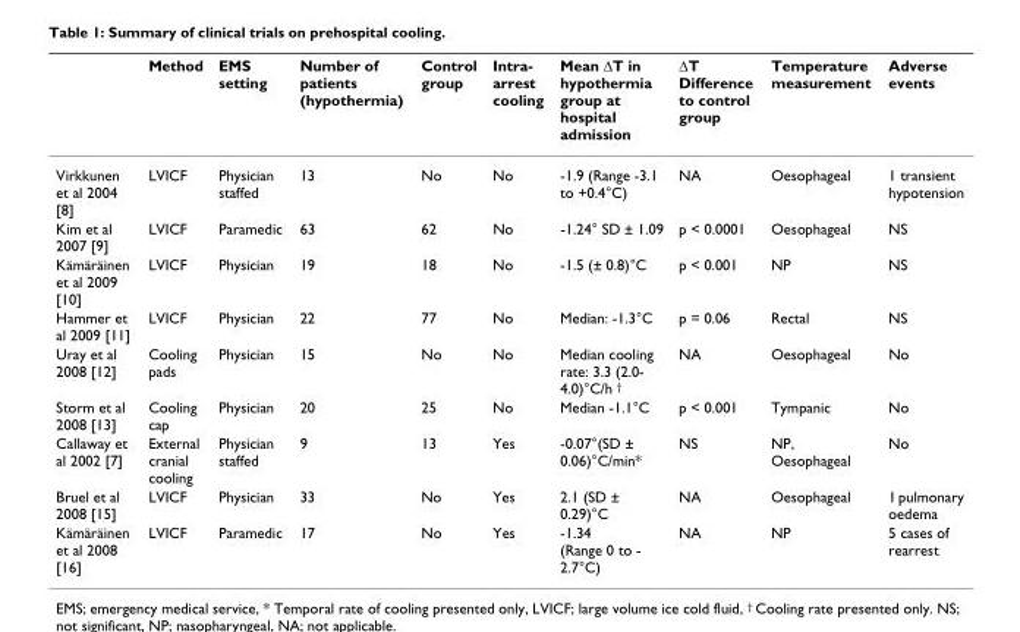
<table><thead><tr><td></td><td>Method</td><td>EMS setting</td><td>Number of patients (hypothermia)</td><td>Control group</td><td>Intra- arrest cooling</td><td>Mean ΔT in hypothermia group at hospital admission</td><td>ΔT Difference to control group</td><td>Temperature measurement</td><td>Adverse events</td></tr></thead><tbody><tr><td>Virkkunen et al 2004 [8]</td><td>LVICF</td><td>Physician staffed</td><td>13</td><td>No</td><td>No</td><td>-1.9 (Range -3.1 to +0.4°C)</td><td>NA</td><td>Oesophageal</td><td>1 transient hypotension</td></tr><tr><td>Kim et al 2007 [9]</td><td>LVICF</td><td>Paramedic</td><td>63</td><td>62</td><td>No</td><td>-1.24° SD ± 1.09</td><td>p &lt; 0.0001</td><td>Oesophageal</td><td>NS</td></tr><tr><td>Kämäräinen et al 2009 [10]</td><td>LVICF</td><td>Physician</td><td>19</td><td>18</td><td>No</td><td>-1.5 (± 0.8)°C</td><td>p &lt; 0.001</td><td>NP</td><td>NS</td></tr><tr><td>Hammer et al 2009 [11]</td><td>LVICF</td><td>Physician</td><td>22</td><td>77</td><td>No</td><td>Median: -1.3°C</td><td>p = 0.06</td><td>Rectal</td><td>NS</td></tr><tr><td>Uray et al 2008 [12]</td><td>Cooling pads</td><td>Physician</td><td>15</td><td>No</td><td>No</td><td>Median cooling rate: 3.3 (2.0- 4.0)°C/h <sup>†</sup></td><td>NA</td><td>Oesophageal</td><td>No</td></tr><tr><td>Storm et al 2008 [13]</td><td>Cooling cap</td><td>Physician</td><td>20</td><td>25</td><td>No</td><td>Median -1.1°C</td><td>p &lt; 0.001</td><td>Tympanic</td><td>No</td></tr><tr><td>Callaway et al 2002 [7]</td><td>External cranial cooling</td><td>Physician staffed</td><td>9</td><td>13</td><td>Yes</td><td>-0.07°(SD ± 0.06)°C/min*</td><td>NS</td><td>NP, Oesophageal</td><td>No</td></tr><tr><td>Bruel et al 2008 [15]</td><td>LVICF</td><td>Physician</td><td>33</td><td>No</td><td>Yes</td><td>2.1 (SD ± 0.29)°C</td><td>NA</td><td>Oesophageal</td><td>1 pulmonary oedema</td></tr><tr><td>Kämäräinen et al 2008 [16]</td><td>LVICF</td><td>Paramedic</td><td>17</td><td>No</td><td>Yes</td><td>-1.34 (Range 0 to - 2.7°C)</td><td>NA</td><td>NP</td><td>5 cases of rearrest</td></tr></tbody></table>